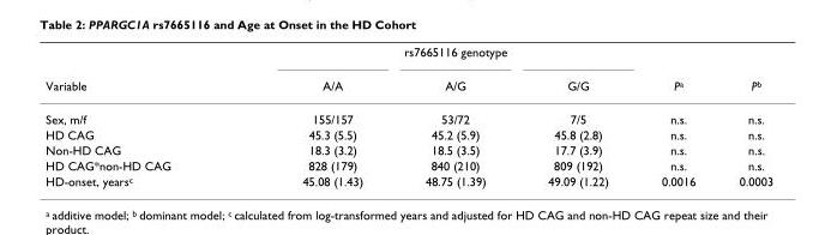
<table><thead><tr><td rowspan="2">Variable</td><td colspan="3">rs7665116 genotype</td><td rowspan="2">P<sup>a</sup></td><td rowspan="2">P<sup>b</sup></td></tr><tr><td>A/A</td><td>A/G</td><td>G/G</td></tr></thead><tbody><tr><td>Sex, m/f</td><td>155/157</td><td>53/72</td><td>7/5</td><td>n.s.</td><td>n.s.</td></tr><tr><td>HD CAG</td><td>45.3 (5.5)</td><td>45.2 (5.9)</td><td>45.8 (2.8)</td><td>n.s.</td><td>n.s.</td></tr><tr><td>Non-HD CAG</td><td>18.3 (3.2)</td><td>18.5 (3.5)</td><td>17.7 (3.9)</td><td>n.s.</td><td>n.s.</td></tr><tr><td>HD CAG*non-HD CAG</td><td>828 (179)</td><td>840 (210)</td><td>809 (192)</td><td>n.s.</td><td>n.s.</td></tr><tr><td>HD-onset, years<sup>c</sup></td><td>45.08 (1.43)</td><td>48.75 (1.39)</td><td>49.09 (1.22)</td><td>0.0016</td><td>0.0003</td></tr></tbody></table>